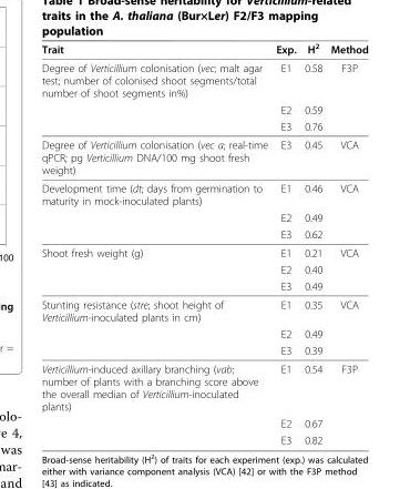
<table><thead><tr><td>Trait</td><td>Exp.</td><td>H<sup>2</sup></td><td>Method</td></tr></thead><tbody><tr><td rowspan="3">Degree of Verticillium colonisation (vec; malt agar test; number of colonised shoot segments/total number of shoot segments in%)</td><td>E1</td><td>0.58</td><td>F3P</td></tr><tr><td>E2</td><td>0.59</td><td></td></tr><tr><td>E3</td><td>0.76</td><td></td></tr><tr><td>Degree of Verticillium colonisation (vec a; real-time qPCR; pg Verticillium DNA/100 mg shoot fresh weight)</td><td>E3</td><td>0.45</td><td>VCA</td></tr><tr><td rowspan="3">Development time (dt; days from germination to maturity in mock-inoculated plants)</td><td>E1</td><td>0.46</td><td>VCA</td></tr><tr><td>E2</td><td>0.49</td><td></td></tr><tr><td>E3</td><td>0.62</td><td></td></tr><tr><td rowspan="3">Shoot fresh weight (g)</td><td>E1</td><td>0.21</td><td>VCA</td></tr><tr><td>E2</td><td>0.40</td><td></td></tr><tr><td>E3</td><td>0.49</td><td></td></tr><tr><td rowspan="3">Stunting resistance (stre; shoot height of Verticillium-inoculated plants in cm)</td><td>E1</td><td>0.35</td><td>VCA</td></tr><tr><td>E2</td><td>0.49</td><td></td></tr><tr><td>E3</td><td>0.39</td><td></td></tr><tr><td rowspan="3">Verticillium-induced axillary branching (vab; number of plants with a branching score above the overall median of Verticillium-inoculated plants)</td><td>E1</td><td>0.54</td><td>F3P</td></tr><tr><td>E2</td><td>0.67</td><td></td></tr><tr><td>E3</td><td>0.82</td><td></td></tr></tbody></table>